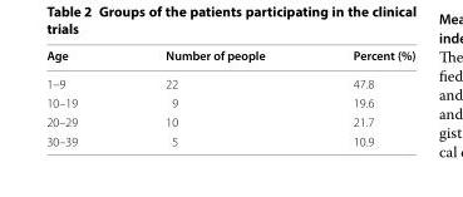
<table><thead><tr><td>Age</td><td>Number of people</td><td>Percent (%)</td></tr></thead><tbody><tr><td>1–9</td><td>22</td><td>47.8</td></tr><tr><td>10–19</td><td>9</td><td>19.6</td></tr><tr><td>20–29</td><td>10</td><td>21.7</td></tr><tr><td>30–39</td><td>5</td><td>10.9</td></tr></tbody></table>